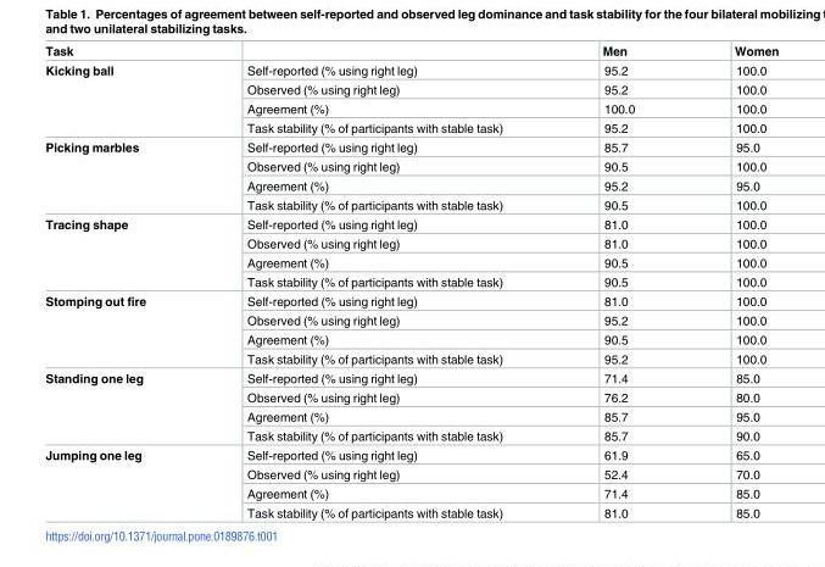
<table><thead><tr><td>Task</td><td></td><td>Men</td><td>Women</td></tr></thead><tbody><tr><td rowspan="4">Kicking ball</td><td>Self-reported (% using right leg)</td><td>95.2</td><td>100.0</td></tr><tr><td>Observed (% using right leg)</td><td>95.2</td><td>100.0</td></tr><tr><td>Agreement (%)</td><td>100.0</td><td>100.0</td></tr><tr><td>Task stability (% of participants with stable task)</td><td>95.2</td><td>100.0</td></tr><tr><td rowspan="4">Picking marbles</td><td>Self-reported (% using right leg)</td><td>85.7</td><td>95.0</td></tr><tr><td>Observed (% using right leg)</td><td>90.5</td><td>100.0</td></tr><tr><td>Agreement (%)</td><td>95.2</td><td>95.0</td></tr><tr><td>Task stability (% of participants with stable task)</td><td>90.5</td><td>100.0</td></tr><tr><td rowspan="4">Tracing shape</td><td>Self-reported (% using right leg)</td><td>81.0</td><td>100.0</td></tr><tr><td>Observed (% using right leg)</td><td>81.0</td><td>100.0</td></tr><tr><td>Agreement (%)</td><td>90.5</td><td>100.0</td></tr><tr><td>Task stability (% of participants with stable task)</td><td>90.5</td><td>100.0</td></tr><tr><td rowspan="4">Stomping out fire</td><td>Self-reported (% using right leg)</td><td>81.0</td><td>100.0</td></tr><tr><td>Observed (% using right leg)</td><td>95.2</td><td>100.0</td></tr><tr><td>Agreement (%)</td><td>90.5</td><td>100.0</td></tr><tr><td>Task stability (% of participants with stable task)</td><td>95.2</td><td>100.0</td></tr><tr><td rowspan="4">Standing one leg</td><td>Self-reported (% using right leg)</td><td>71.4</td><td>85.0</td></tr><tr><td>Observed (% using right leg)</td><td>76.2</td><td>80.0</td></tr><tr><td>Agreement (%)</td><td>85.7</td><td>95.0</td></tr><tr><td>Task stability (% of participants with stable task)</td><td>85.7</td><td>90.0</td></tr><tr><td rowspan="4">Jumping one leg</td><td>Self-reported (% using right leg)</td><td>61.9</td><td>65.0</td></tr><tr><td>Observed (% using right leg)</td><td>52.4</td><td>70.0</td></tr><tr><td>Agreement (%)</td><td>71.4</td><td>85.0</td></tr><tr><td>Task stability (% of participants with stable task)</td><td>81.0</td><td>85.0</td></tr></tbody></table>